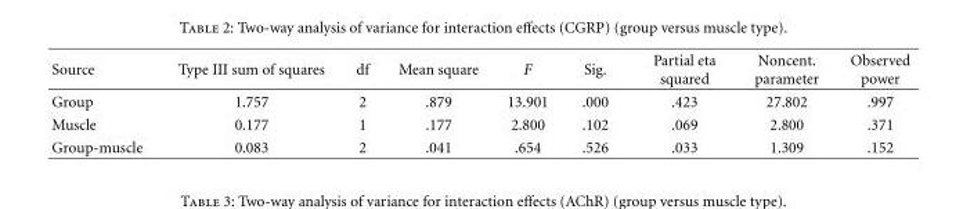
<table><thead><tr><td>Source</td><td>Type III sum of squares</td><td>df</td><td>Mean square</td><td>F</td><td>Sig.</td><td>Partial eta squared</td><td>Noncent. parameter</td><td>Observed power</td></tr></thead><tbody><tr><td>Group</td><td>1.757</td><td>2</td><td>.879</td><td>13.901</td><td>.000</td><td>.423</td><td>27.802</td><td>.997</td></tr><tr><td>Muscle</td><td>0.177</td><td>1</td><td>.177</td><td>2.800</td><td>.102</td><td>.069</td><td>2.800</td><td>.371</td></tr><tr><td>Group-muscle</td><td>0.083</td><td>2</td><td>.041</td><td>.654</td><td>.526</td><td>.033</td><td>1.309</td><td>.152</td></tr></tbody></table>